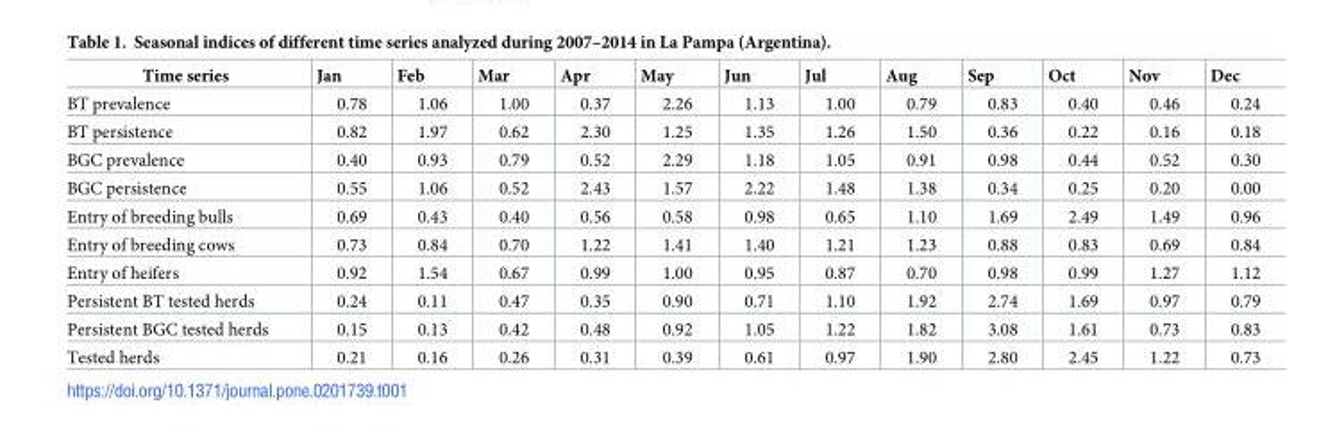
<table><thead><tr><td>Time series</td><td>Jan</td><td>Feb</td><td>Mar</td><td>Apr</td><td>May</td><td>Jun</td><td>Jul</td><td>Aug</td><td>Sep</td><td>Oct</td><td>Nov</td><td>Dec</td></tr></thead><tbody><tr><td>BT prevalence</td><td>0.78</td><td>1.06</td><td>1.00</td><td>0.37</td><td>2.26</td><td>1.13</td><td>1.00</td><td>0.79</td><td>0.83</td><td>0.40</td><td>0.46</td><td>0.24</td></tr><tr><td>BT persistence</td><td>0.82</td><td>1.97</td><td>0.62</td><td>2.30</td><td>1.25</td><td>1.35</td><td>1.26</td><td>1.50</td><td>0.36</td><td>0.22</td><td>0.16</td><td>0.18</td></tr><tr><td>BGC prevalence</td><td>0.40</td><td>0.93</td><td>0.79</td><td>0.52</td><td>2.29</td><td>1.18</td><td>1.05</td><td>0.91</td><td>0.98</td><td>0.44</td><td>0.52</td><td>0.30</td></tr><tr><td>BGC persistence</td><td>0.55</td><td>1.06</td><td>0.52</td><td>2.43</td><td>1.57</td><td>2.22</td><td>1.48</td><td>1.38</td><td>0.34</td><td>0.25</td><td>0.20</td><td>0.00</td></tr><tr><td>Entry of breeding bulls</td><td>0.69</td><td>0.43</td><td>0.40</td><td>0.56</td><td>0.58</td><td>0.98</td><td>0.65</td><td>1.10</td><td>1.69</td><td>2.49</td><td>1.49</td><td>0.96</td></tr><tr><td>Entry of breeding cows</td><td>0.73</td><td>0.84</td><td>0.70</td><td>1.22</td><td>1.41</td><td>1.40</td><td>1.21</td><td>1.23</td><td>0.88</td><td>0.83</td><td>0.69</td><td>0.84</td></tr><tr><td>Entry of heifers</td><td>0.92</td><td>1.54</td><td>0.67</td><td>0.99</td><td>1.00</td><td>0.95</td><td>0.87</td><td>0.70</td><td>0.98</td><td>0.99</td><td>1.27</td><td>1.12</td></tr><tr><td>Persistent BT tested herds</td><td>0.24</td><td>0.11</td><td>0.47</td><td>0.35</td><td>0.90</td><td>0.71</td><td>1.10</td><td>1.92</td><td>2.74</td><td>1.69</td><td>0.97</td><td>0.79</td></tr><tr><td>Persistent BGC tested herds</td><td>0.15</td><td>0.13</td><td>0.42</td><td>0.48</td><td>0.92</td><td>1.05</td><td>1.22</td><td>1.82</td><td>3.08</td><td>1.61</td><td>0.73</td><td>0.83</td></tr><tr><td>Tested herds</td><td>0.21</td><td>0.16</td><td>0.26</td><td>0.31</td><td>0.39</td><td>0.61</td><td>0.97</td><td>1.90</td><td>2.80</td><td>2.45</td><td>1.22</td><td>0.73</td></tr></tbody></table>